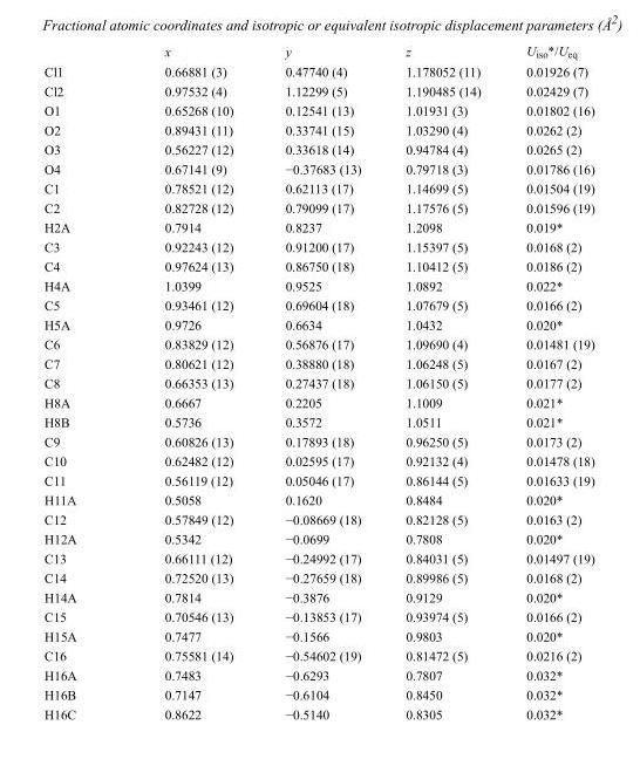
<table><thead><tr><td></td><td>x</td><td>y</td><td>z</td><td>U<sub>iso</sub>*/U<sub>eq</sub></td></tr></thead><tbody><tr><td>Cl1</td><td>0.66881 (3)</td><td>0.47740 (4)</td><td>1.178052 (11)</td><td>0.01926 (7)</td></tr><tr><td>Cl2</td><td>0.97532 (4)</td><td>1.12299 (5)</td><td>1.190485 (14)</td><td>0.02429 (7)</td></tr><tr><td>O1</td><td>0.65268 (10)</td><td>0.12541 (13)</td><td>1.01931 (3)</td><td>0.01802 (16)</td></tr><tr><td>O2</td><td>0.89431 (11)</td><td>0.33741 (15)</td><td>1.03290 (4)</td><td>0.0262 (2)</td></tr><tr><td>O3</td><td>0.56227 (12)</td><td>0.33618 (14)</td><td>0.94784 (4)</td><td>0.0265 (2)</td></tr><tr><td>O4</td><td>0.67141 (9)</td><td>−0.37683 (13)</td><td>0.79718 (3)</td><td>0.01786 (16)</td></tr><tr><td>C1</td><td>0.78521 (12)</td><td>0.62113 (17)</td><td>1.14699 (5)</td><td>0.01504 (19)</td></tr><tr><td>C2</td><td>0.82728 (12)</td><td>0.79099 (17)</td><td>1.17576 (5)</td><td>0.01596 (19)</td></tr><tr><td>H2A</td><td>0.7914</td><td>0.8237</td><td>1.2098</td><td>0.019*</td></tr><tr><td>C3</td><td>0.92243 (12)</td><td>0.91200 (17)</td><td>1.15397 (5)</td><td>0.0168 (2)</td></tr><tr><td>C4</td><td>0.97624 (13)</td><td>0.86750 (18)</td><td>1.10412 (5)</td><td>0.0186 (2)</td></tr><tr><td>H4A</td><td>1.0399</td><td>0.9525</td><td>1.0892</td><td>0.022*</td></tr><tr><td>C5</td><td>0.93461 (12)</td><td>0.69604 (18)</td><td>1.07679 (5)</td><td>0.0166 (2)</td></tr><tr><td>H5A</td><td>0.9726</td><td>0.6634</td><td>1.0432</td><td>0.020*</td></tr><tr><td>C6</td><td>0.83829 (12)</td><td>0.56876 (17)</td><td>1.09690 (4)</td><td>0.01481 (19)</td></tr><tr><td>C7</td><td>0.80621 (12)</td><td>0.38880 (18)</td><td>1.06248 (5)</td><td>0.0167 (2)</td></tr><tr><td>C8</td><td>0.66353 (13)</td><td>0.27437 (18)</td><td>1.06150 (5)</td><td>0.0177 (2)</td></tr><tr><td>H8A</td><td>0.6667</td><td>0.2205</td><td>1.1009</td><td>0.021*</td></tr><tr><td>H8B</td><td>0.5736</td><td>0.3572</td><td>1.0511</td><td>0.021*</td></tr><tr><td>C9</td><td>0.60826 (13)</td><td>0.17893 (18)</td><td>0.96250 (5)</td><td>0.0173 (2)</td></tr><tr><td>C10</td><td>0.62482 (12)</td><td>0.02595 (17)</td><td>0.92132 (4)</td><td>0.01478 (18)</td></tr><tr><td>C11</td><td>0.56119 (12)</td><td>0.05046 (17)</td><td>0.86144 (5)</td><td>0.01633 (19)</td></tr><tr><td>H11A</td><td>0.5058</td><td>0.1620</td><td>0.8484</td><td>0.020*</td></tr><tr><td>C12</td><td>0.57849 (12)</td><td>−0.08669 (18)</td><td>0.82128 (5)</td><td>0.0163 (2)</td></tr><tr><td>H12A</td><td>0.5342</td><td>−0.0699</td><td>0.7808</td><td>0.020*</td></tr><tr><td>C13</td><td>0.66111 (12)</td><td>−0.24992 (17)</td><td>0.84031 (5)</td><td>0.01497 (19)</td></tr><tr><td>C14</td><td>0.72520 (13)</td><td>−0.27659 (18)</td><td>0.89986 (5)</td><td>0.0168 (2)</td></tr><tr><td>H14A</td><td>0.7814</td><td>−0.3876</td><td>0.9129</td><td>0.020*</td></tr><tr><td>C15</td><td>0.70546 (13)</td><td>−0.13853 (17)</td><td>0.93974 (5)</td><td>0.0166 (2)</td></tr><tr><td>H15A</td><td>0.7477</td><td>−0.1566</td><td>0.9803</td><td>0.020*</td></tr><tr><td>C16</td><td>0.75581 (14)</td><td>−0.54602 (19)</td><td>0.81472 (5)</td><td>0.0216 (2)</td></tr><tr><td>H16A</td><td>0.7483</td><td>−0.6293</td><td>0.7807</td><td>0.032*</td></tr><tr><td>H16B</td><td>0.7147</td><td>−0.6104</td><td>0.8450</td><td>0.032*</td></tr><tr><td>H16C</td><td>0.8622</td><td>−0.5140</td><td>0.8305</td><td>0.032*</td></tr></tbody></table>